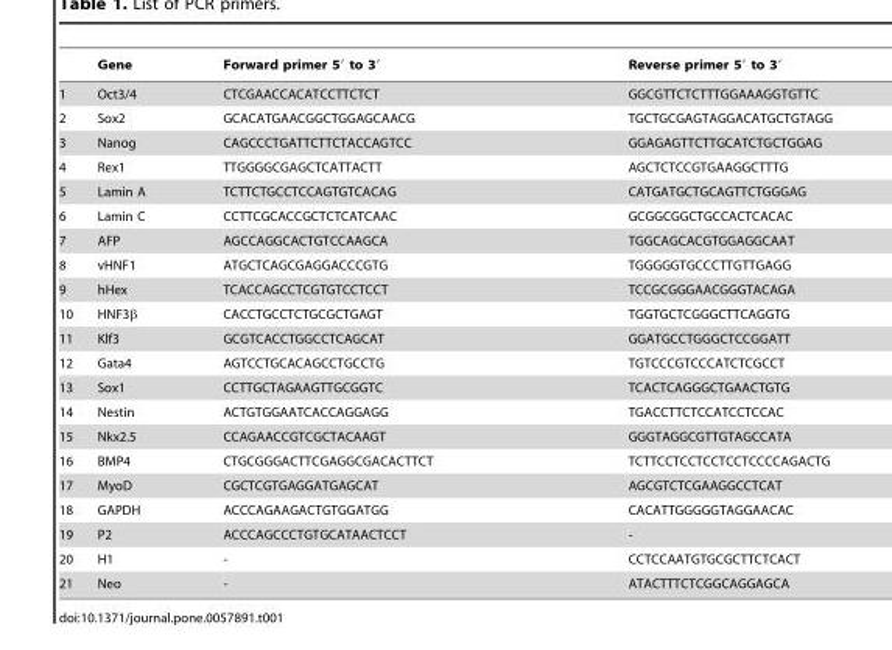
<table><thead><tr><td></td><td>Gene</td><td>Forward primer 5′ to 3′</td><td>Reverse primer 5′ to 3′</td></tr></thead><tbody><tr><td>1</td><td>Oct3/4</td><td>CTCGAACCACATCCTTCTCT</td><td>GGCGTTCTCTTTGGAAAGGTGTTC</td></tr><tr><td>2</td><td>Sox2</td><td>GCACATGAACGGCTGGAGCAACG</td><td>TGCTGCGAGTAGGACATGCTGTAGG</td></tr><tr><td>3</td><td>Nanog</td><td>CAGCCCTGATTCTTCTACCAGTCC</td><td>GGAGAGTTCTTGCATCTGCTGGAG</td></tr><tr><td>4</td><td>Rex1</td><td>TTGGGGCGAGCTCATTACTT</td><td>AGCTCTCCGTGAAGGCTTTG</td></tr><tr><td>5</td><td>Lamin A</td><td>TCTTCTGCCTCCAGTGTCACAG</td><td>CATGATGCTGCAGTTCTGGGAG</td></tr><tr><td>6</td><td>Lamin C</td><td>CCTTCGCACCGCTCTCATCAAC</td><td>GCGGCGGCTGCCACTCACAC</td></tr><tr><td>7</td><td>AFP</td><td>AGCCAGGCACTGTCCAAGCA</td><td>TGGCAGCACGTGGAGGCAAT</td></tr><tr><td>8</td><td>vHNF1</td><td>ATGCTCAGCGAGGACCCGTG</td><td>TGGGGGTGCCCTTGTTGAGG</td></tr><tr><td>9</td><td>hHex</td><td>TCACCAGCCTCGTGTCCTCCT</td><td>TCCGCGGGAACGGGTACAGA</td></tr><tr><td>10</td><td>HNF3β</td><td>CACCTGCCTCTGCGCTGAGT</td><td>TGGTGCTCGGGCTTCAGGTG</td></tr><tr><td>11</td><td>Klf3</td><td>GCGTCACCTGGCCTCAGCAT</td><td>GGATGCCTGGGCTCCGGATT</td></tr><tr><td>12</td><td>Gata4</td><td>AGTCCTGCACAGCCTGCCTG</td><td>TGTCCCGTCCCATCTCGCCT</td></tr><tr><td>13</td><td>Sox1</td><td>CCTTGCTAGAAGTTGCGGTC</td><td>TCACTCAGGGCTGAACTGTG</td></tr><tr><td>14</td><td>Nestin</td><td>ACTGTGGAATCACCAGGAGG</td><td>TGACCTTCTCCATCCTCCAC</td></tr><tr><td>15</td><td>Nkx2.5</td><td>CCAGAACCGTCGCTACAAGT</td><td>GGGTAGGCGTTGTAGCCATA</td></tr><tr><td>16</td><td>BMP4</td><td>CTGCGGGACTTCGAGGCGACACTTCT</td><td>TCTTCCTCCTCCTCCTCCCCAGACTG</td></tr><tr><td>17</td><td>MyoD</td><td>CGCTCGTGAGGATGAGCAT</td><td>AGCGTCTCGAAGGCCTCAT</td></tr><tr><td>18</td><td>GAPDH</td><td>ACCCAGAAGACTGTGGATGG</td><td>CACATTGGGGGTAGGAACAC</td></tr><tr><td>19</td><td>P2</td><td>ACCCAGCCCTGTGCATAACTCCT</td><td>-</td></tr><tr><td>20</td><td>H1</td><td>-</td><td>CCTCCAATGTGCGCTTCTCACT</td></tr><tr><td>21</td><td>Neo</td><td>-</td><td>ATACTTTCTCGGCAGGAGCA</td></tr></tbody></table>